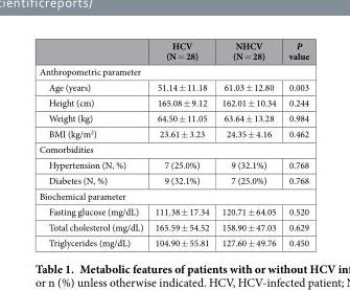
<table><thead><tr><td></td><td>HCV (N = 28)</td><td>NHCV (N = 28)</td><td>P value</td></tr></thead><tbody><tr><td colspan="4">Anthropometric parameter</td></tr><tr><td>Age (years)</td><td>51.14 ± 11.18</td><td>61.03 ± 12.80</td><td>0.003</td></tr><tr><td>Height (cm)</td><td>165.08 ± 9.12</td><td>162.01 ± 10.34</td><td>0.244</td></tr><tr><td>Weight (kg)</td><td>64.50 ± 11.05</td><td>63.64 ± 13.28</td><td>0.984</td></tr><tr><td>BMI (kg/m<sup>2</sup>)</td><td>23.61 ± 3.23</td><td>24.35 ± 4.16</td><td>0.462</td></tr><tr><td colspan="4">Comorbidities</td></tr><tr><td>Hypertension (N, %)</td><td>7 (25.0%)</td><td>9 (32.1%)</td><td>0.768</td></tr><tr><td>Diabetes (N, %)</td><td>9 (32.1%)</td><td>7 (25.0%)</td><td>0.768</td></tr><tr><td colspan="4">Biochemical parameter</td></tr><tr><td>Fasting glucose (mg/dL)</td><td>111.38 ± 17.34</td><td>120.71 ± 64.05</td><td>0.520</td></tr><tr><td>Total cholesterol (mg/dL)</td><td>165.59 ± 54.52</td><td>158.90 ± 47.03</td><td>0.629</td></tr><tr><td>Triglycerides (mg/dL)</td><td>104.90 ± 55.81</td><td>127.60 ± 49.76</td><td>0.450</td></tr></tbody></table>